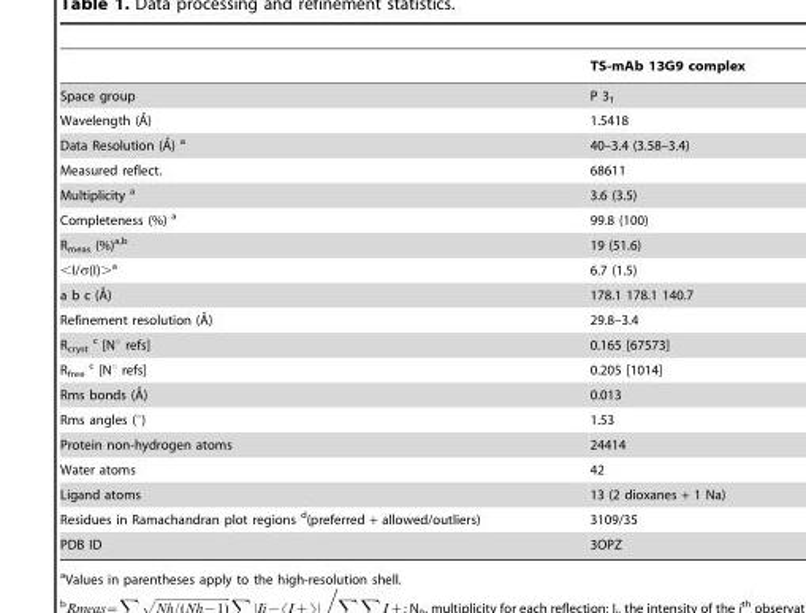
<table><thead><tr><td></td><td>TS-mAb 13G9 complex</td></tr></thead><tbody><tr><td>Space group</td><td>P 3<sub>1</sub></td></tr><tr><td>Wavelength (A˚)</td><td>1.5418</td></tr><tr><td>Data Resolution (A˚) a</td><td>40–3.4 (3.58–3.4)</td></tr><tr><td>Measured reflect.</td><td>68611</td></tr><tr><td>Multiplicity a</td><td>3.6 (3.5)</td></tr><tr><td>Completeness (%) a</td><td>99.8 (100)</td></tr><tr><td>R<sub>meas</sub> (%)a,b</td><td>19 (51.6)</td></tr><tr><td>&lt;I/σ(I)&gt;<sup>a</sup></td><td>6.7 (1.5)</td></tr><tr><td>a b c (A˚)</td><td>178.1 178.1 140.7</td></tr><tr><td>Refinement resolution (A˚)</td><td>29.8–3.4</td></tr><tr><td>R<sub>cryst</sub> c [N° refs]</td><td>0.165 [67573]</td></tr><tr><td>R<sub>free</sub> c [N° refs]</td><td>0.205 [1014]</td></tr><tr><td>Rms bonds (A˚)</td><td>0.013</td></tr><tr><td>Rms angles (°)</td><td>1.53</td></tr><tr><td>Protein non-hydrogen atoms</td><td>24414</td></tr><tr><td>Water atoms</td><td>42</td></tr><tr><td>Ligand atoms</td><td>13 (2 dioxanes + 1 Na)</td></tr><tr><td>Residues in Ramachandran plot regions d(preferred + allowed/outliers)</td><td>3109/35</td></tr><tr><td>PDB ID</td><td>3OPZ</td></tr></tbody></table>